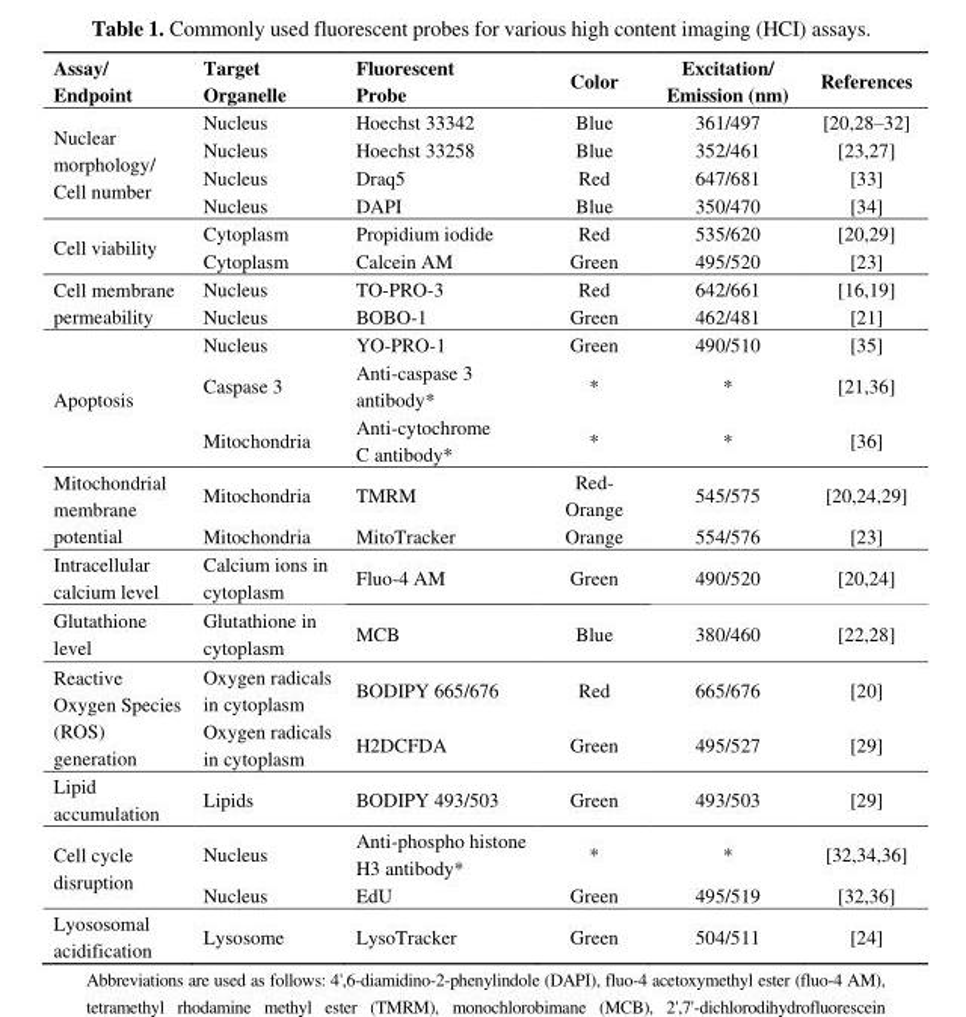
<table><thead><tr><td>Assay/ Endpoint</td><td>Target Organelle</td><td>Fluorescent Probe</td><td>Color</td><td>Excitation/ Emission (nm)</td><td>References</td></tr></thead><tbody><tr><td rowspan="4">Nuclear morphology/ Cell number</td><td>Nucleus</td><td>Hoechst 33342</td><td>Blue</td><td>361/497</td><td>[20,28–32]</td></tr><tr><td>Nucleus</td><td>Hoechst 33258</td><td>Blue</td><td>352/461</td><td>[23,27]</td></tr><tr><td>Nucleus</td><td>Draq5</td><td>Red</td><td>647/681</td><td>[33]</td></tr><tr><td>Nucleus</td><td>DAPI</td><td>Blue</td><td>350/470</td><td>[34]</td></tr><tr><td rowspan="2">Cell viability</td><td>Cytoplasm</td><td>Propidium iodide</td><td>Red</td><td>535/620</td><td>[20,29]</td></tr><tr><td>Cytoplasm</td><td>Calcein AM</td><td>Green</td><td>495/520</td><td>[23]</td></tr><tr><td rowspan="2">Cell membrane permeability</td><td>Nucleus</td><td>TO-PRO-3</td><td>Red</td><td>642/661</td><td>[16,19]</td></tr><tr><td>Nucleus</td><td>BOBO-1</td><td>Green</td><td>462/481</td><td>[21]</td></tr><tr><td rowspan="3">Apoptosis</td><td>Nucleus</td><td>YO-PRO-1</td><td>Green</td><td>490/510</td><td>[35]</td></tr><tr><td>Caspase 3</td><td>Anti-caspase 3 antibody*</td><td>*</td><td>*</td><td>[21,36]</td></tr><tr><td>Mitochondria</td><td>Anti-cytochrome C antibody*</td><td>*</td><td>*</td><td>[36]</td></tr><tr><td rowspan="2">Mitochondrial membrane potential</td><td>Mitochondria</td><td>TMRM</td><td>Red- Orange</td><td>545/575</td><td>[20,24,29]</td></tr><tr><td>Mitochondria</td><td>MitoTracker</td><td>Orange</td><td>554/576</td><td>[23]</td></tr><tr><td>Intracellular calcium level</td><td>Calcium ions in cytoplasm</td><td>Fluo-4 AM</td><td>Green</td><td>490/520</td><td>[20,24]</td></tr><tr><td>Glutathione level</td><td>Glutathione in cytoplasm</td><td>MCB</td><td>Blue</td><td>380/460</td><td>[22,28]</td></tr><tr><td rowspan="2">Reactive Oxygen Species (ROS) generation</td><td>Oxygen radicals in cytoplasm</td><td>BODIPY 665/676</td><td>Red</td><td>665/676</td><td>[20]</td></tr><tr><td>Oxygen radicals in cytoplasm</td><td>H2DCFDA</td><td>Green</td><td>495/527</td><td>[29]</td></tr><tr><td>Lipid accumulation</td><td>Lipids</td><td>BODIPY 493/503</td><td>Green</td><td>493/503</td><td>[29]</td></tr><tr><td rowspan="2">Cell cycle disruption</td><td>Nucleus</td><td>Anti-phospho histone H3 antibody*</td><td>*</td><td>*</td><td>[32,34,36]</td></tr><tr><td>Nucleus</td><td>EdU</td><td>Green</td><td>495/519</td><td>[32,36]</td></tr><tr><td>Lyososomal acidification</td><td>Lysosome</td><td>LysoTracker</td><td>Green</td><td>504/511</td><td>[24]</td></tr></tbody></table>